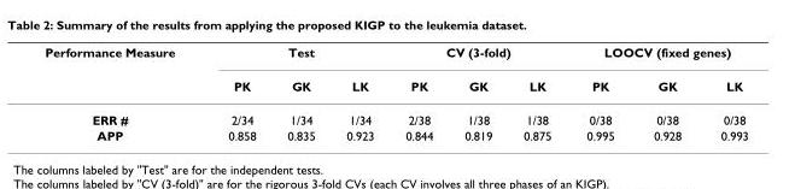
<table><thead><tr><td rowspan="2">Performance Measure</td><td colspan="3">Test</td><td colspan="3">CV (3-fold)</td><td colspan="3">LOOCV (fixed genes)</td></tr><tr><td>PK</td><td>GK</td><td>LK</td><td>PK</td><td>GK</td><td>LK</td><td>PK</td><td>GK</td><td>LK</td></tr></thead><tbody><tr><td>ERR #</td><td>2/34</td><td>1/34</td><td>1/34</td><td>2/38</td><td>1/38</td><td>1/38</td><td>0/38</td><td>0/38</td><td>0/38</td></tr><tr><td>APP</td><td>0.858</td><td>0.835</td><td>0.923</td><td>0.844</td><td>0.819</td><td>0.875</td><td>0.995</td><td>0.928</td><td>0.993</td></tr></tbody></table>